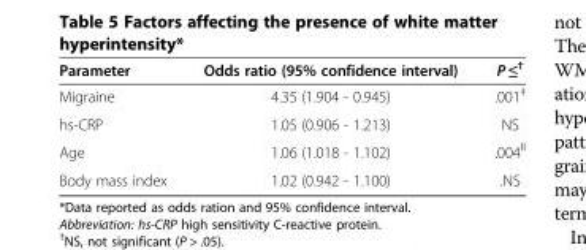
<table><thead><tr><td>Parameter</td><td>Odds ratio (95% confidence interval)</td><td>P ≤<sup>†</sup></td></tr></thead><tbody><tr><td>Migraine</td><td>4.35 (1.904 - 0.945)</td><td>.001<sup>‡</sup></td></tr><tr><td>hs-CRP</td><td>1.05 (0.906 - 1.213)</td><td>NS</td></tr><tr><td>Age</td><td>1.06 (1.018 - 1.102)</td><td>.004<sup>ǁ</sup></td></tr><tr><td>Body mass index</td><td>1.02 (0.942 - 1.100)</td><td>.NS</td></tr></tbody></table>